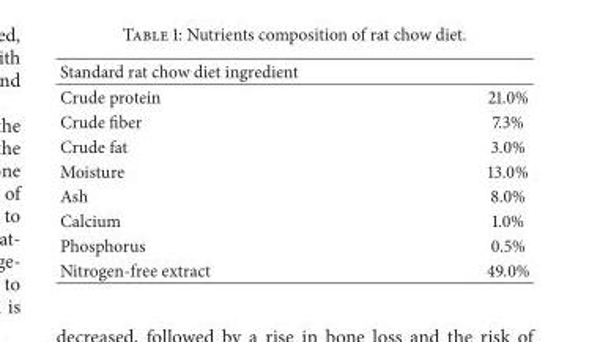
<table><thead><tr><td>Standard rat chow diet ingredient</td><td></td></tr></thead><tbody><tr><td>Crude protein</td><td>21.0%</td></tr><tr><td>Crude fiber</td><td>7.3%</td></tr><tr><td>Crude fat</td><td>3.0%</td></tr><tr><td>Moisture</td><td>13.0%</td></tr><tr><td>Ash</td><td>8.0%</td></tr><tr><td>Calcium</td><td>1.0%</td></tr><tr><td>Phosphorus</td><td>0.5%</td></tr><tr><td>Nitrogen-free extract</td><td>49.0%</td></tr></tbody></table>